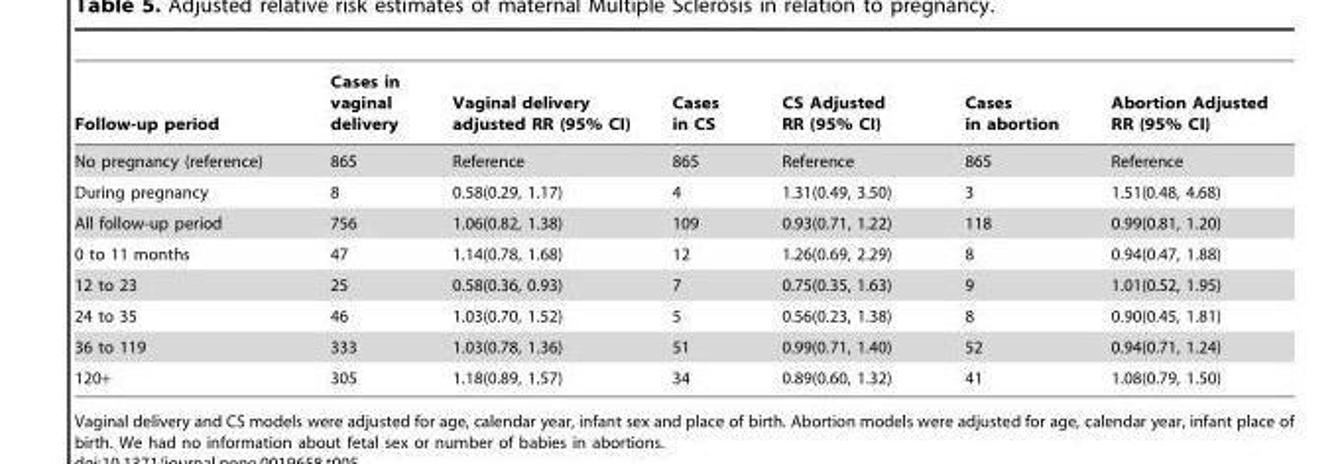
<table><thead><tr><td>Follow-up period</td><td>Cases in vaginal delivery</td><td>Vaginal delivery adjusted RR (95% CI)</td><td>Cases in CS</td><td>CS Adjusted RR (95% CI)</td><td>Cases in abortion</td><td>Abortion Adjusted RR (95% CI)</td></tr></thead><tbody><tr><td>No pregnancy (reference)</td><td>865</td><td>Reference</td><td>865</td><td>Reference</td><td>865</td><td>Reference</td></tr><tr><td>During pregnancy</td><td>8</td><td>0.58(0.29, 1.17)</td><td>4</td><td>1.31(0.49, 3.50)</td><td>3</td><td>1.51(0.48, 4.68)</td></tr><tr><td>All follow-up period</td><td>756</td><td>1.06(0.82, 1.38)</td><td>109</td><td>0.93(0.71, 1.22)</td><td>118</td><td>0.99(0.81, 1.20)</td></tr><tr><td>0 to 11 months</td><td>47</td><td>1.14(0.78, 1.68)</td><td>12</td><td>1.26(0.69, 2.29)</td><td>8</td><td>0.94(0.47, 1.88)</td></tr><tr><td>12 to 23</td><td>25</td><td>0.58(0.36, 0.93)</td><td>7</td><td>0.75(0.35, 1.63)</td><td>9</td><td>1.01(0.52, 1.95)</td></tr><tr><td>24 to 35</td><td>46</td><td>1.03(0.70, 1.52)</td><td>5</td><td>0.56(0.23, 1.38)</td><td>8</td><td>0.90(0.45, 1.81)</td></tr><tr><td>36 to 119</td><td>333</td><td>1.03(0.78, 1.36)</td><td>51</td><td>0.99(0.71, 1.40)</td><td>52</td><td>0.94(0.71, 1.24)</td></tr><tr><td>120+</td><td>305</td><td>1.18(0.89, 1.57)</td><td>34</td><td>0.89(0.60, 1.32)</td><td>41</td><td>1.08(0.79, 1.50)</td></tr></tbody></table>